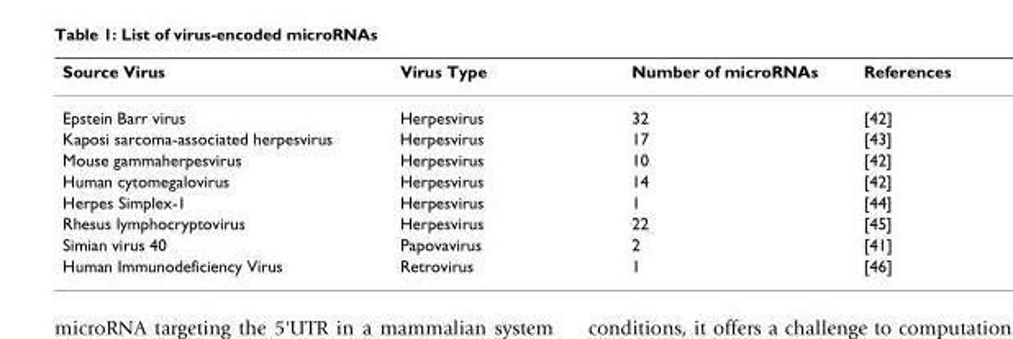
<table><thead><tr><td>Source Virus</td><td>Virus Type</td><td>Number of microRNAs</td><td>References</td></tr></thead><tbody><tr><td>Epstein Barr virus</td><td>Herpesvirus</td><td>32</td><td>[42]</td></tr><tr><td>Kaposi sarcoma-associated herpesvirus</td><td>Herpesvirus</td><td>17</td><td>[43]</td></tr><tr><td>Mouse gammaherpesvirus</td><td>Herpesvirus</td><td>10</td><td>[42]</td></tr><tr><td>Human cytomegalovirus</td><td>Herpesvirus</td><td>14</td><td>[42]</td></tr><tr><td>Herpes Simplex-1</td><td>Herpesvirus</td><td>1</td><td>[44]</td></tr><tr><td>Rhesus lymphocryptovirus</td><td>Herpesvirus</td><td>22</td><td>[45]</td></tr><tr><td>Simian virus 40</td><td>Papovavirus</td><td>2</td><td>[41]</td></tr><tr><td>Human Immunodeficiency Virus</td><td>Retrovirus</td><td>1</td><td>[46]</td></tr></tbody></table>